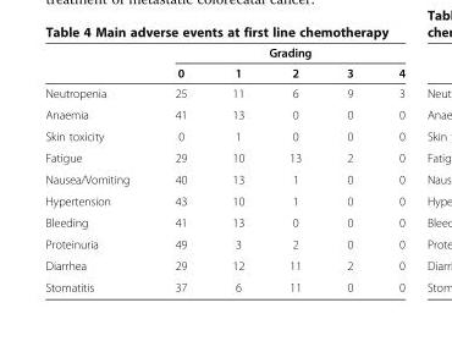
<table><thead><tr><td rowspan="2"></td><td colspan="5">Grading</td></tr><tr><td>0</td><td>1</td><td>2</td><td>3</td><td>4</td></tr></thead><tbody><tr><td>Neutropenia</td><td>25</td><td>11</td><td>6</td><td>9</td><td>3</td></tr><tr><td>Anaemia</td><td>41</td><td>13</td><td>0</td><td>0</td><td>0</td></tr><tr><td>Skin toxicity</td><td>0</td><td>1</td><td>0</td><td>0</td><td>0</td></tr><tr><td>Fatigue</td><td>29</td><td>10</td><td>13</td><td>2</td><td>0</td></tr><tr><td>Nausea/Vomiting</td><td>40</td><td>13</td><td>1</td><td>0</td><td>0</td></tr><tr><td>Hypertension</td><td>43</td><td>10</td><td>1</td><td>0</td><td>0</td></tr><tr><td>Bleeding</td><td>41</td><td>13</td><td>0</td><td>0</td><td>0</td></tr><tr><td>Proteinuria</td><td>49</td><td>3</td><td>2</td><td>0</td><td>0</td></tr><tr><td>Diarrhea</td><td>29</td><td>12</td><td>11</td><td>2</td><td>0</td></tr><tr><td>Stomatitis</td><td>37</td><td>6</td><td>11</td><td>0</td><td>0</td></tr></tbody></table>